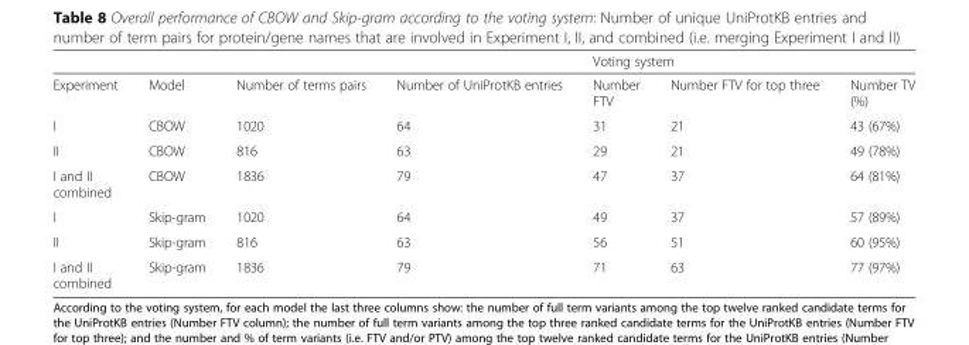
<table><thead><tr><td rowspan="2">Experiment</td><td rowspan="2">Model</td><td rowspan="2">Number of terms pairs</td><td rowspan="2">Number of UniProtKB entries</td><td colspan="3">Voting system</td></tr><tr><td>Number FTV</td><td>Number FTV for top three</td><td>Number TV (%)</td></tr></thead><tbody><tr><td>I</td><td>CBOW</td><td>1020</td><td>64</td><td>31</td><td>21</td><td>43 (67%)</td></tr><tr><td>II</td><td>CBOW</td><td>816</td><td>63</td><td>29</td><td>21</td><td>49 (78%)</td></tr><tr><td>I and II combined</td><td>CBOW</td><td>1836</td><td>79</td><td>47</td><td>37</td><td>64 (81%)</td></tr><tr><td>I</td><td>Skip-gram</td><td>1020</td><td>64</td><td>49</td><td>37</td><td>57 (89%)</td></tr><tr><td>II</td><td>Skip-gram</td><td>816</td><td>63</td><td>56</td><td>51</td><td>60 (95%)</td></tr><tr><td>I and II combined</td><td>Skip-gram</td><td>1836</td><td>79</td><td>71</td><td>63</td><td>77 (97%)</td></tr></tbody></table>